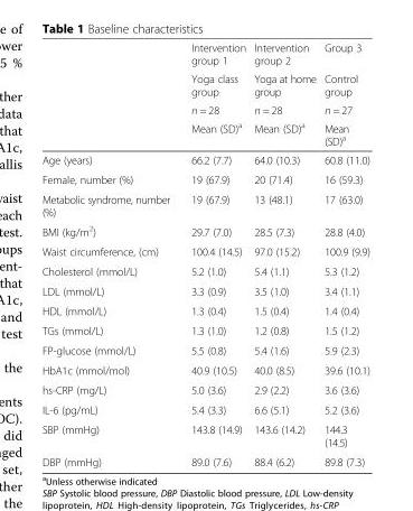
<table><thead><tr><td rowspan="4"></td><td rowspan="4">Intervention group 1 Yoga class group n = 28 Mean (SD)<sup>a</sup></td><td rowspan="4">Intervention group 2 Yoga at home group n = 28 Mean (SD)<sup>a</sup></td><td rowspan="4">Group 3 Control group n = 27 Mean (SD)<sup>a</sup></td></tr><tr></tr><tr></tr><tr></tr></thead><tbody><tr><td>Age (years)</td><td>66.2 (7.7)</td><td>64.0 (10.3)</td><td>60.8 (11.0)</td></tr><tr><td>Female, number (%)</td><td>19 (67.9)</td><td>20 (71.4)</td><td>16 (59.3)</td></tr><tr><td>Metabolic syndrome, number (%)</td><td>19 (67.9)</td><td>13 (48.1)</td><td>17 (63.0)</td></tr><tr><td>BMI (kg/m<sup>2</sup>)</td><td>29.7 (7.0)</td><td>28.5 (7.3)</td><td>28.8 (4.0)</td></tr><tr><td>Waist circumference, (cm)</td><td>100.4 (14.5)</td><td>97.0 (15.2)</td><td>100.9 (9.9)</td></tr><tr><td>Cholesterol (mmol/L)</td><td>5.2 (1.0)</td><td>5.4 (1.1)</td><td>5.3 (1.2)</td></tr><tr><td>LDL (mmol/L)</td><td>3.3 (0.9)</td><td>3.5 (1.0)</td><td>3.4 (1.1)</td></tr><tr><td>HDL (mmol/L)</td><td>1.3 (0.4)</td><td>1.5 (0.4)</td><td>1.4 (0.4)</td></tr><tr><td>TGs (mmol/L)</td><td>1.3 (1.0)</td><td>1.2 (0.8)</td><td>1.5 (1.2)</td></tr><tr><td>FP-glucose (mmol/L)</td><td>5.5 (0.8)</td><td>5.4 (1.6)</td><td>5.9 (2.3)</td></tr><tr><td>HbA1c (mmol/mol)</td><td>40.9 (10.5)</td><td>40.0 (8.5)</td><td>39.6 (10.1)</td></tr><tr><td>hs-CRP (mg/L)</td><td>5.0 (3.6)</td><td>2.9 (2.2)</td><td>3.6 (3.6)</td></tr><tr><td>IL-6 (pg/mL)</td><td>5.4 (3.3)</td><td>6.6 (5.1)</td><td>5.2 (3.6)</td></tr><tr><td>SBP (mmHg)</td><td>143.8 (14.9)</td><td>143.6 (14.2)</td><td>144.3 (14.5)</td></tr><tr><td>DBP (mmHg)</td><td>89.0 (7.6)</td><td>88.4 (6.2)</td><td>89.8 (7.3)</td></tr></tbody></table>